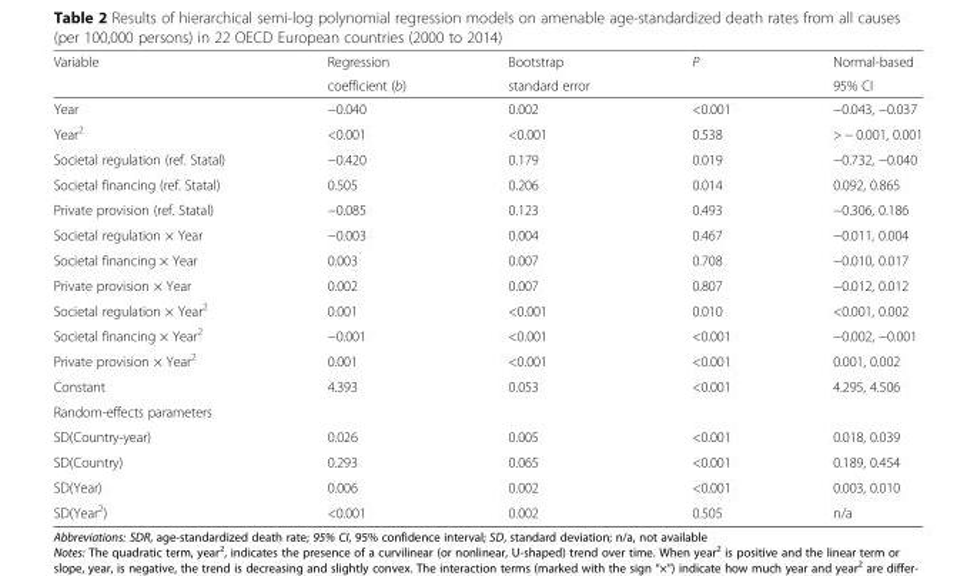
<table><thead><tr><td rowspan="2">Variable</td><td rowspan="2">Regression coefficient (b)</td><td rowspan="2">Bootstrap standard error</td><td rowspan="2">P</td><td rowspan="2">Normal-based 95% CI</td></tr><tr></tr></thead><tbody><tr><td>Year</td><td>−0.040</td><td>0.002</td><td>&lt;0.001</td><td>−0.043, −0.037</td></tr><tr><td>Year<sup>2</sup></td><td>&lt;0.001</td><td>&lt;0.001</td><td>0.538</td><td>&gt; − 0.001, 0.001</td></tr><tr><td>Societal regulation (ref. Statal)</td><td>−0.420</td><td>0.179</td><td>0.019</td><td>−0.732, −0.040</td></tr><tr><td>Societal financing (ref. Statal)</td><td>0.505</td><td>0.206</td><td>0.014</td><td>0.092, 0.865</td></tr><tr><td>Private provision (ref. Statal)</td><td>−0.085</td><td>0.123</td><td>0.493</td><td>−0.306, 0.186</td></tr><tr><td>Societal regulation × Year</td><td>−0.003</td><td>0.004</td><td>0.467</td><td>−0.011, 0.004</td></tr><tr><td>Societal financing × Year</td><td>0.003</td><td>0.007</td><td>0.708</td><td>−0.010, 0.017</td></tr><tr><td>Private provision × Year</td><td>0.002</td><td>0.007</td><td>0.807</td><td>−0.012, 0.012</td></tr><tr><td>Societal regulation × Year<sup>2</sup></td><td>0.001</td><td>&lt;0.001</td><td>0.010</td><td>&lt;0.001, 0.002</td></tr><tr><td>Societal financing × Year<sup>2</sup></td><td>−0.001</td><td>&lt;0.001</td><td>&lt;0.001</td><td>−0.002, −0.001</td></tr><tr><td>Private provision × Year<sup>2</sup></td><td>0.001</td><td>&lt;0.001</td><td>&lt;0.001</td><td>0.001, 0.002</td></tr><tr><td>Constant</td><td>4.393</td><td>0.053</td><td>&lt;0.001</td><td>4.295, 4.506</td></tr><tr><td colspan="5">Random-effects parameters</td></tr><tr><td>SD(Country-year)</td><td>0.026</td><td>0.005</td><td>&lt;0.001</td><td>0.018, 0.039</td></tr><tr><td>SD(Country)</td><td>0.293</td><td>0.065</td><td>&lt;0.001</td><td>0.189, 0.454</td></tr><tr><td>SD(Year)</td><td>0.006</td><td>0.002</td><td>&lt;0.001</td><td>0.003, 0.010</td></tr><tr><td>SD(Year<sup>2</sup>)</td><td>&lt;0.001</td><td>0.002</td><td>0.505</td><td>n/a</td></tr></tbody></table>